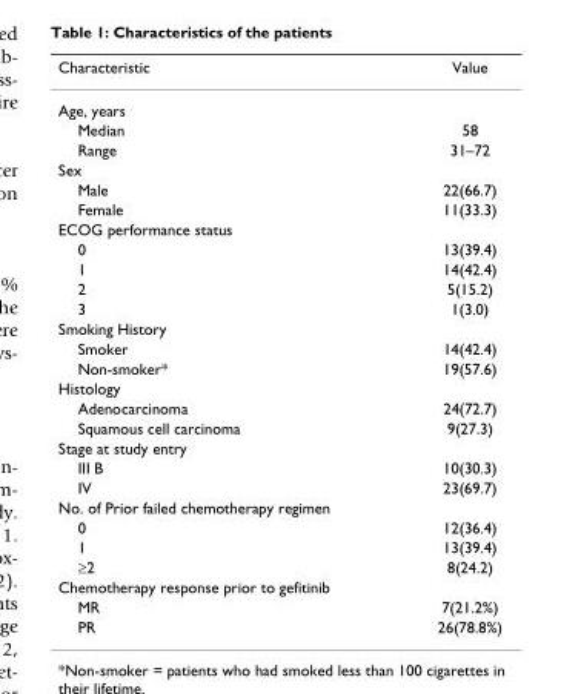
<table><thead><tr><td>Characteristic</td><td>Value</td></tr></thead><tbody><tr><td colspan="2">Age, years</td></tr><tr><td>Median</td><td>58</td></tr><tr><td>Range</td><td>31–72</td></tr><tr><td colspan="2">Sex</td></tr><tr><td>Male</td><td>22(66.7)</td></tr><tr><td>Female</td><td>11(33.3)</td></tr><tr><td colspan="2">ECOG performance status</td></tr><tr><td>0</td><td>13(39.4)</td></tr><tr><td>1</td><td>14(42.4)</td></tr><tr><td>2</td><td>5(15.2)</td></tr><tr><td>3</td><td>1(3.0)</td></tr><tr><td colspan="2">Smoking History</td></tr><tr><td>Smoker</td><td>14(42.4)</td></tr><tr><td>Non-smoker*</td><td>19(57.6)</td></tr><tr><td colspan="2">Histology</td></tr><tr><td>Adenocarcinoma</td><td>24(72.7)</td></tr><tr><td>Squamous cell carcinoma</td><td>9(27.3)</td></tr><tr><td colspan="2">Stage at study entry</td></tr><tr><td>III B</td><td>10(30.3)</td></tr><tr><td>IV</td><td>23(69.7)</td></tr><tr><td colspan="2">No. of Prior failed chemotherapy regimen</td></tr><tr><td>0</td><td>12(36.4)</td></tr><tr><td>1</td><td>13(39.4)</td></tr><tr><td>≥2</td><td>8(24.2)</td></tr><tr><td colspan="2">Chemotherapy response prior to gefitinib</td></tr><tr><td>MR</td><td>7(21.2%)</td></tr><tr><td>PR</td><td>26(78.8%)</td></tr></tbody></table>